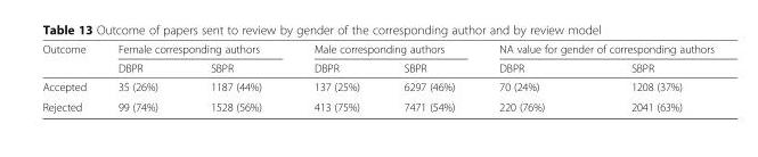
<table><thead><tr><td rowspan="2">Outcome</td><td colspan="2">Female corresponding authors</td><td colspan="2">Male corresponding authors</td><td colspan="2">NA value for gender of corresponding authors</td></tr><tr><td>DBPR</td><td>SBPR</td><td>DBPR</td><td>SBPR</td><td>DBPR</td><td>SBPR</td></tr></thead><tbody><tr><td>Accepted</td><td>35 (26%)</td><td>1187 (44%)</td><td>137 (25%)</td><td>6297 (46%)</td><td>70 (24%)</td><td>1208 (37%)</td></tr><tr><td>Rejected</td><td>99 (74%)</td><td>1528 (56%)</td><td>413 (75%)</td><td>7471 (54%)</td><td>220 (76%)</td><td>2041 (63%)</td></tr></tbody></table>